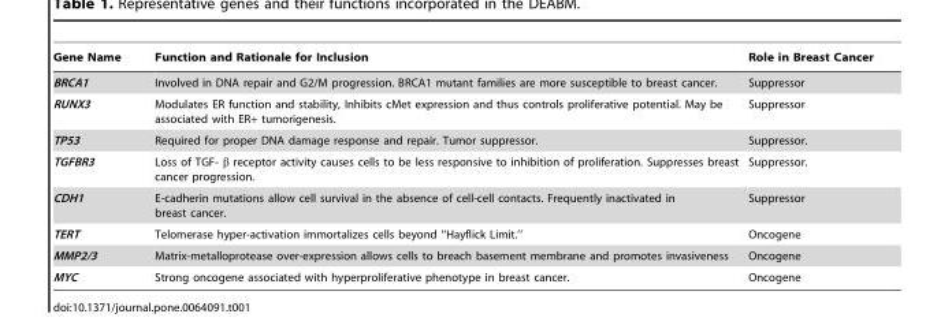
<table><thead><tr><td>Gene Name</td><td>Function and Rationale for Inclusion</td><td>Role in Breast Cancer</td></tr></thead><tbody><tr><td>BRCA1</td><td>Involved in DNA repair and G2/M progression. BRCA1 mutant families are more susceptible to breast cancer.</td><td>Suppressor</td></tr><tr><td>RUNX3</td><td>Modulates ER function and stability, Inhibits cMet expression and thus controls proliferative potential. May be associated with ER+ tumorigenesis.</td><td>Suppressor</td></tr><tr><td>TP53</td><td>Required for proper DNA damage response and repair. Tumor suppressor.</td><td>Suppressor.</td></tr><tr><td>TGFBR3</td><td>Loss of TGF- β receptor activity causes cells to be less responsive to inhibition of proliferation. Suppresses breast cancer progression.</td><td>Suppressor.</td></tr><tr><td>CDH1</td><td>E-cadherin mutations allow cell survival in the absence of cell-cell contacts. Frequently inactivated in breast cancer.</td><td>Suppressor</td></tr><tr><td>TERT</td><td>Telomerase hyper-activation immortalizes cells beyond ‘‘Hayflick Limit.’’</td><td>Oncogene</td></tr><tr><td>MMP2/3</td><td>Matrix-metalloprotease over-expression allows cells to breach basement membrane and promotes invasiveness</td><td>Oncogene</td></tr><tr><td>MYC</td><td>Strong oncogene associated with hyperproliferative phenotype in breast cancer.</td><td>Oncogene</td></tr></tbody></table>